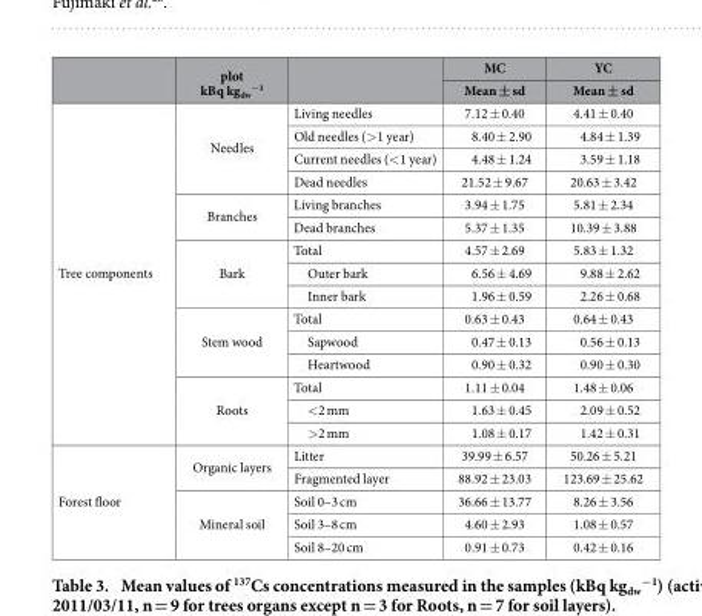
<table><thead><tr><td rowspan="2"></td><td rowspan="2">plot kBq kg<sub>dw</sub> <sup>−1</sup></td><td rowspan="2"></td><td rowspan="2">MC Mean ± sd</td><td rowspan="2">YC Mean ± sd</td></tr><tr></tr></thead><tbody><tr><td rowspan="15">Tree components</td><td rowspan="4">Needles</td><td>Living needles</td><td>7.12 ± 0.40</td><td>4.41 ± 0.40</td></tr><tr><td>Old needles (&gt; 1 year)</td><td>8.40 ± 2.90</td><td>4.84 ± 1.39</td></tr><tr><td>Current needles (&lt; 1 year)</td><td>4.48 ± 1.24</td><td>3.59 ± 1.18</td></tr><tr><td>Dead needles</td><td>21.52 ± 9.67</td><td>20.63 ± 3.42</td></tr><tr><td rowspan="2">Branches</td><td>Living branches</td><td>3.94 ± 1.75</td><td>5.81 ± 2.34</td></tr><tr><td>Dead branches</td><td>5.37 ± 1.35</td><td>10.39 ± 3.88</td></tr><tr><td rowspan="3">Bark</td><td>Total</td><td>4.57 ± 2.69</td><td>5.83 ± 1.32</td></tr><tr><td>Outer bark</td><td>6.56 ± 4.69</td><td>9.88 ± 2.62</td></tr><tr><td>Inner bark</td><td>1.96 ± 0.59</td><td>2.26 ± 0.68</td></tr><tr><td rowspan="3">Stem wood</td><td>Total</td><td>0.63 ± 0.43</td><td>0.64 ± 0.43</td></tr><tr><td>Sapwood</td><td>0.47 ± 0.13</td><td>0.56 ± 0.13</td></tr><tr><td>Heartwood</td><td>0.90 ± 0.32</td><td>0.90 ± 0.30</td></tr><tr><td rowspan="3">Roots</td><td>Total</td><td>1.11 ± 0.04</td><td>1.48 ± 0.06</td></tr><tr><td>&lt; 2 mm</td><td>1.63 ± 0.45</td><td>2.09 ± 0.52</td></tr><tr><td>&gt; 2 mm</td><td>1.08 ± 0.17</td><td>1.42 ± 0.31</td></tr><tr><td rowspan="5">Forest floor</td><td rowspan="2">Organic layers</td><td>Litter</td><td>39.99 ± 6.57</td><td>50.26 ± 5.21</td></tr><tr><td>Fragmented layer</td><td>88.92 ± 23.03</td><td>123.69 ± 25.62</td></tr><tr><td rowspan="3">Mineral soil</td><td>Soil 0–3 cm</td><td>36.66 ± 13.77</td><td>8.26 ± 3.56</td></tr><tr><td>Soil 3–8 cm</td><td>4.60 ± 2.93</td><td>1.08 ± 0.57</td></tr><tr><td>Soil 8–20 cm</td><td>0.91 ± 0.73</td><td>0.42 ± 0.16</td></tr></tbody></table>